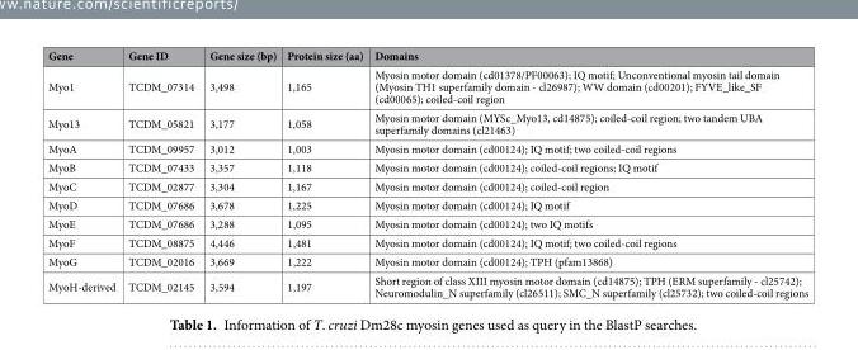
<table><thead><tr><td>Gene</td><td>Gene ID</td><td>Gene size (bp)</td><td>Protein size (aa)</td><td>Domains</td></tr></thead><tbody><tr><td>Myo1</td><td>TCDM_07314</td><td>3,498</td><td>1,165</td><td>Myosin motor domain (cd01378/PF00063); IQ motif; Unconventional myosin tail domain (Myosin TH1 superfamily domain - cl26987); WW domain (cd00201); FYVE_like_SF (cd00065); coiled-coil region</td></tr><tr><td>Myo13</td><td>TCDM_05821</td><td>3,177</td><td>1,058</td><td>Myosin motor domain (MYSc_Myo13, cd14875); coiled-coil region; two tandem UBA superfamily domains (cl21463)</td></tr><tr><td>MyoA</td><td>TCDM_09957</td><td>3,012</td><td>1,003</td><td>Myosin motor domain (cd00124); IQ motif; two coiled-coil regions</td></tr><tr><td>MyoB</td><td>TCDM_07433</td><td>3,357</td><td>1,118</td><td>Myosin motor domain (cd00124); coiled-coil regions; IQ motif</td></tr><tr><td>MyoC</td><td>TCDM_02877</td><td>3,304</td><td>1,167</td><td>Myosin motor domain (cd00124); coiled-coil region</td></tr><tr><td>MyoD</td><td>TCDM_07686</td><td>3,678</td><td>1,225</td><td>Myosin motor domain (cd00124); IQ motif</td></tr><tr><td>MyoE</td><td>TCDM_07686</td><td>3,288</td><td>1,095</td><td>Myosin motor domain (cd00124); two IQ motifs</td></tr><tr><td>MyoF</td><td>TCDM_08875</td><td>4,446</td><td>1,481</td><td>Myosin motor domain (cd00124); IQ motif; two coiled-coil regions</td></tr><tr><td>MyoG</td><td>TCDM_02016</td><td>3,669</td><td>1,222</td><td>Myosin motor domain (cd00124); TPH (pfam13868)</td></tr><tr><td>MyoH-derived</td><td>TCDM_02145</td><td>3,594</td><td>1,197</td><td>Short region of class XIII myosin motor domain (cd14875); TPH (ERM superfamily - cl25742); Neuromodulin_N superfamily (cl26511); SMC_N superfamily (cl25732); two coiled-coil regions</td></tr></tbody></table>